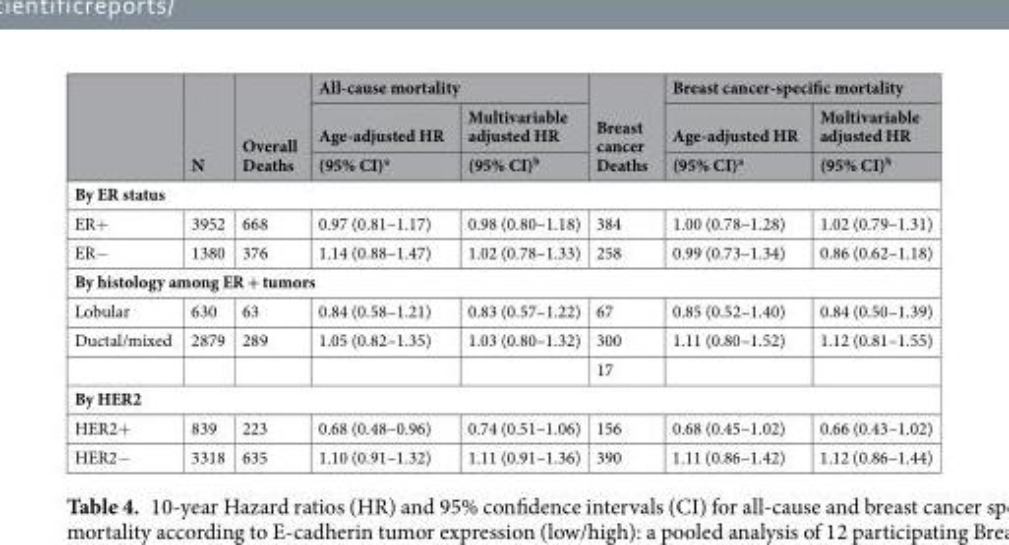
<table><thead><tr><td rowspan="3"></td><td rowspan="3">N</td><td rowspan="3">Overall Deaths</td><td colspan="2">All-cause mortality</td><td rowspan="3">Breast cancer Deaths</td><td colspan="2">Breast cancer-specific mortality</td></tr><tr><td rowspan="2">Age-adjusted HR (95% CI)<sup>a</sup></td><td rowspan="2">Multivariable adjusted HR (95% CI)<sup>b</sup></td><td rowspan="2">Age-adjusted HR (95% CI)<sup>a</sup></td><td rowspan="2">Multivariable adjusted HR (95% CI)<sup>b</sup></td></tr><tr></tr></thead><tbody><tr><td colspan="8">By ER status</td></tr><tr><td>ER+</td><td>3952</td><td>668</td><td>0.97 (0.81–1.17)</td><td>0.98 (0.80–1.18)</td><td>384</td><td>1.00 (0.78–1.28)</td><td>1.02 (0.79–1.31)</td></tr><tr><td>ER−</td><td>1380</td><td>376</td><td>1.14 (0.88–1.47)</td><td>1.02 (0.78–1.33)</td><td>258</td><td>0.99 (0.73–1.34)</td><td>0.86 (0.62–1.18)</td></tr><tr><td colspan="8">By histology among ER + tumors</td></tr><tr><td>Lobular</td><td>630</td><td>63</td><td>0.84 (0.58–1.21)</td><td>0.83 (0.57–1.22)</td><td>67</td><td>0.85 (0.52–1.40)</td><td>0.84 (0.50–1.39)</td></tr><tr><td rowspan="2">Ductal/mixed</td><td>2879</td><td>289</td><td>1.05 (0.82–1.35)</td><td>1.03 (0.80–1.32)</td><td>300</td><td>1.11 (0.80–1.52)</td><td>1.12 (0.81–1.55)</td></tr><tr><td></td><td></td><td></td><td></td><td>17</td><td></td><td></td></tr><tr><td colspan="8">By HER2</td></tr><tr><td>HER2+</td><td>839</td><td>223</td><td>0.68 (0.48–0.96)</td><td>0.74 (0.51–1.06)</td><td>156</td><td>0.68 (0.45–1.02)</td><td>0.66 (0.43–1.02)</td></tr><tr><td>HER2−</td><td>3318</td><td>635</td><td>1.10 (0.91–1.32)</td><td>1.11 (0.91–1.36)</td><td>390</td><td>1.11 (0.86–1.42)</td><td>1.12 (0.86–1.44)</td></tr></tbody></table>